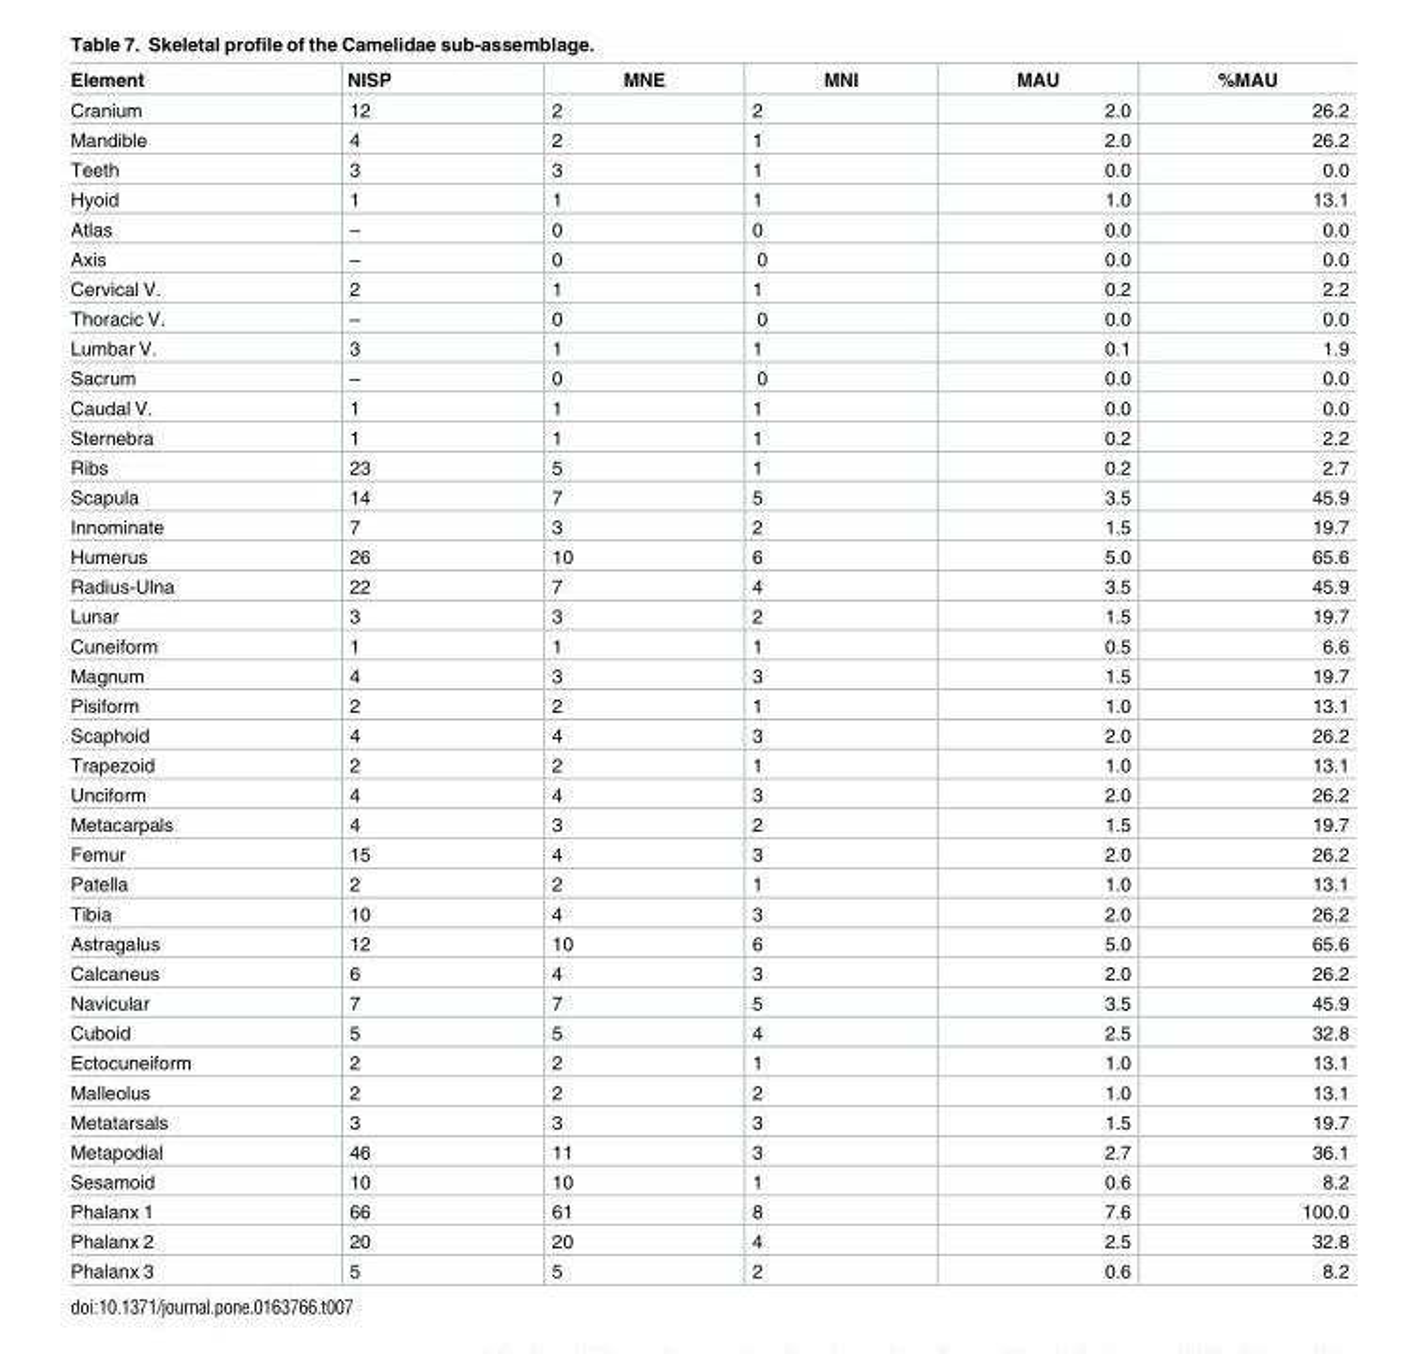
<table><thead><tr><td>Element</td><td>NISP</td><td>MNE</td><td>MNI</td><td>MAU</td><td>%MAU</td></tr></thead><tbody><tr><td>Cranium</td><td>12</td><td>2</td><td>2</td><td>2.0</td><td>26.2</td></tr><tr><td>Mandible</td><td>4</td><td>2</td><td>1</td><td>2.0</td><td>26.2</td></tr><tr><td>Teeth</td><td>3</td><td>3</td><td>1</td><td>0.0</td><td>0.0</td></tr><tr><td>Hyoid</td><td>1</td><td>1</td><td>1</td><td>1.0</td><td>13.1</td></tr><tr><td>Atlas</td><td>–</td><td>0</td><td>0</td><td>0.0</td><td>0.0</td></tr><tr><td>Axis</td><td>–</td><td>0</td><td>0</td><td>0.0</td><td>0.0</td></tr><tr><td>Cervical V.</td><td>2</td><td>1</td><td>1</td><td>0.2</td><td>2.2</td></tr><tr><td>Thoracic V.</td><td>–</td><td>0</td><td>0</td><td>0.0</td><td>0.0</td></tr><tr><td>Lumbar V.</td><td>3</td><td>1</td><td>1</td><td>0.1</td><td>1.9</td></tr><tr><td>Sacrum</td><td>–</td><td>0</td><td>0</td><td>0.0</td><td>0.0</td></tr><tr><td>Caudal V.</td><td>1</td><td>1</td><td>1</td><td>0.0</td><td>0.0</td></tr><tr><td>Sternebra</td><td>1</td><td>1</td><td>1</td><td>0.2</td><td>2.2</td></tr><tr><td>Ribs</td><td>23</td><td>5</td><td>1</td><td>0.2</td><td>2.7</td></tr><tr><td>Scapula</td><td>14</td><td>7</td><td>5</td><td>3.5</td><td>45.9</td></tr><tr><td>Innominate</td><td>7</td><td>3</td><td>2</td><td>1.5</td><td>19.7</td></tr><tr><td>Humerus</td><td>26</td><td>10</td><td>6</td><td>5.0</td><td>65.6</td></tr><tr><td>Radius-Ulna</td><td>22</td><td>7</td><td>4</td><td>3.5</td><td>45.9</td></tr><tr><td>Lunar</td><td>3</td><td>3</td><td>2</td><td>1.5</td><td>19.7</td></tr><tr><td>Cuneiform</td><td>1</td><td>1</td><td>1</td><td>0.5</td><td>6.6</td></tr><tr><td>Magnum</td><td>4</td><td>3</td><td>3</td><td>1.5</td><td>19.7</td></tr><tr><td>Pisiform</td><td>2</td><td>2</td><td>1</td><td>1.0</td><td>13.1</td></tr><tr><td>Scaphoid</td><td>4</td><td>4</td><td>3</td><td>2.0</td><td>26.2</td></tr><tr><td>Trapezoid</td><td>2</td><td>2</td><td>1</td><td>1.0</td><td>13.1</td></tr><tr><td>Unciform</td><td>4</td><td>4</td><td>3</td><td>2.0</td><td>26.2</td></tr><tr><td>Metacarpals</td><td>4</td><td>3</td><td>2</td><td>1.5</td><td>19.7</td></tr><tr><td>Femur</td><td>15</td><td>4</td><td>3</td><td>2.0</td><td>26.2</td></tr><tr><td>Patella</td><td>2</td><td>2</td><td>1</td><td>1.0</td><td>13.1</td></tr><tr><td>Tibia</td><td>10</td><td>4</td><td>3</td><td>2.0</td><td>26.2</td></tr><tr><td>Astragalus</td><td>12</td><td>10</td><td>6</td><td>5.0</td><td>65.6</td></tr><tr><td>Calcaneus</td><td>6</td><td>4</td><td>3</td><td>2.0</td><td>26.2</td></tr><tr><td>Navicular</td><td>7</td><td>7</td><td>5</td><td>3.5</td><td>45.9</td></tr><tr><td>Cuboid</td><td>5</td><td>5</td><td>4</td><td>2.5</td><td>32.8</td></tr><tr><td>Ectocuneiform</td><td>2</td><td>2</td><td>1</td><td>1.0</td><td>13.1</td></tr><tr><td>Malleolus</td><td>2</td><td>2</td><td>2</td><td>1.0</td><td>13.1</td></tr><tr><td>Metatarsals</td><td>3</td><td>3</td><td>3</td><td>1.5</td><td>19.7</td></tr><tr><td>Metapodial</td><td>46</td><td>11</td><td>3</td><td>2.7</td><td>36.1</td></tr><tr><td>Sesamoid</td><td>10</td><td>10</td><td>1</td><td>0.6</td><td>8.2</td></tr><tr><td>Phalanx 1</td><td>66</td><td>61</td><td>8</td><td>7.6</td><td>100.0</td></tr><tr><td>Phalanx 2</td><td>20</td><td>20</td><td>4</td><td>2.5</td><td>32.8</td></tr><tr><td>Phalanx 3</td><td>5</td><td>5</td><td>2</td><td>0.6</td><td>8.2</td></tr></tbody></table>